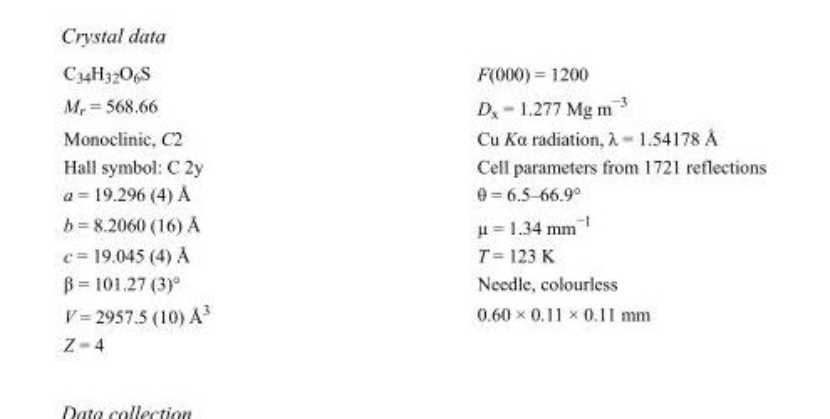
<table><tbody><tr><td>C<sub>34</sub>H<sub>32</sub>O<sub>6</sub>S</td><td>F(000) = 1200</td></tr><tr><td>M<sub>r</sub> = 568.66</td><td>D<sub>x</sub> = 1.277 Mg m<sup>−3</sup></td></tr><tr><td>Monoclinic, C2</td><td>Cu Kα radiation, λ = 1.54178 Å</td></tr><tr><td>Hall symbol: C 2y</td><td>Cell parameters from 1721 reflections</td></tr><tr><td>a = 19.296 (4) Å</td><td>θ = 6.5–66.9°</td></tr><tr><td>b = 8.2060 (16) Å</td><td>µ = 1.34 mm<sup>−1</sup></td></tr><tr><td>c = 19.045 (4) Å</td><td>T = 123 K</td></tr><tr><td>β = 101.27 (3)°</td><td>Needle, colourless</td></tr><tr><td>V = 2957.5 (10) Å<sup>3</sup></td><td>0.60 × 0.11 × 0.11 mm</td></tr><tr><td>Z = 4</td><td></td></tr></tbody></table>